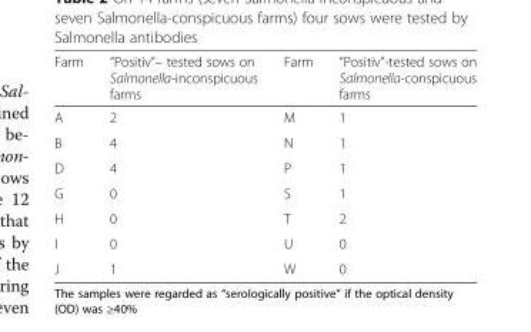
<table><thead><tr><td>Farm</td><td>“Positiv”– tested sows on Salmonella-inconspicuous farms</td><td>Farm</td><td>“Positiv”-tested sows on Salmonella-conspicuous farms</td></tr></thead><tbody><tr><td>A</td><td>2</td><td>M</td><td>1</td></tr><tr><td>B</td><td>4</td><td>N</td><td>1</td></tr><tr><td>D</td><td>4</td><td>P</td><td>1</td></tr><tr><td>G</td><td>0</td><td>S</td><td>1</td></tr><tr><td>H</td><td>0</td><td>T</td><td>2</td></tr><tr><td>I</td><td>0</td><td>U</td><td>0</td></tr><tr><td>J</td><td>1</td><td>W</td><td>0</td></tr></tbody></table>